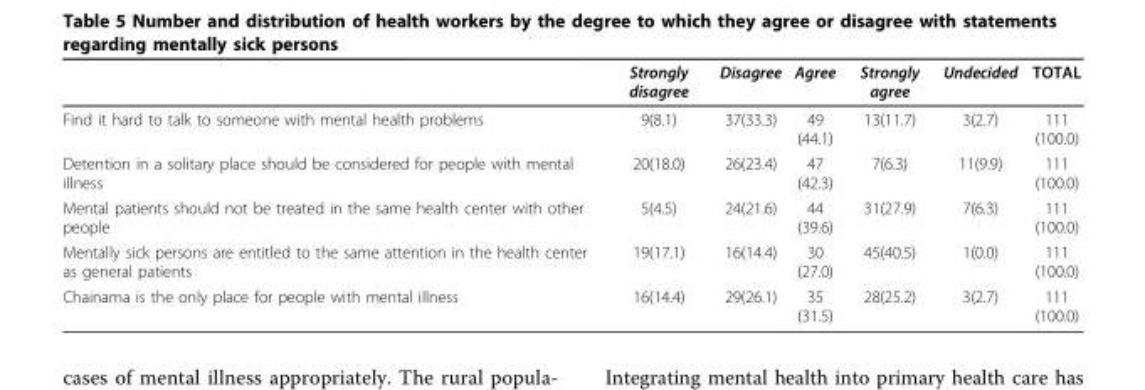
<table><thead><tr><td></td><td>Strongly disagree</td><td>Disagree</td><td>Agree</td><td>Strongly agree</td><td>Undecided</td><td>TOTAL</td></tr></thead><tbody><tr><td>Find it hard to talk to someone with mental health problems</td><td>9(8.1)</td><td>37(33.3)</td><td>49 (44.1)</td><td>13(11.7)</td><td>3(2.7)</td><td>111 (100.0)</td></tr><tr><td>Detention in a solitary place should be considered for people with mental illness</td><td>20(18.0)</td><td>26(23.4)</td><td>47 (42.3)</td><td>7(6.3)</td><td>11(9.9)</td><td>111 (100.0)</td></tr><tr><td>Mental patients should not be treated in the same health center with other people</td><td>5(4.5)</td><td>24(21.6)</td><td>44 (39.6)</td><td>31(27.9)</td><td>7(6.3)</td><td>111 (100.0)</td></tr><tr><td>Mentally sick persons are entitled to the same attention in the health center as general patients</td><td>19(17.1)</td><td>16(14.4)</td><td>30 (27.0)</td><td>45(40.5)</td><td>1(0.0)</td><td>111 (100.0)</td></tr><tr><td>Chainama is the only place for people with mental illness</td><td>16(14.4)</td><td>29(26.1)</td><td>35 (31.5)</td><td>28(25.2)</td><td>3(2.7)</td><td>111 (100.0)</td></tr></tbody></table>